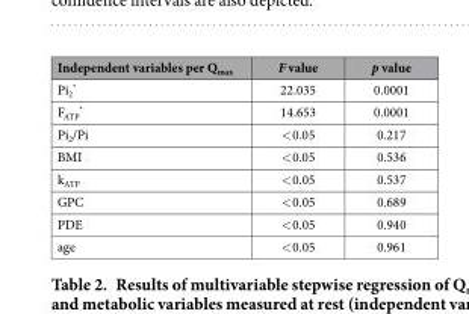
<table><thead><tr><td>Independent variables per Q<sub>max</sub></td><td>F value</td><td>p value</td></tr></thead><tbody><tr><td>Pi<sub>2</sub> *</td><td>22.035</td><td>0.0001</td></tr><tr><td>F<sub>ATP</sub> *</td><td>14.653</td><td>0.0001</td></tr><tr><td>Pi<sub>2</sub>/Pi</td><td>&lt; 0.05</td><td>0.217</td></tr><tr><td>BMI</td><td>&lt; 0.05</td><td>0.536</td></tr><tr><td>k<sub>ATP</sub></td><td>&lt; 0.05</td><td>0.537</td></tr><tr><td>GPC</td><td>&lt; 0.05</td><td>0.689</td></tr><tr><td>PDE</td><td>&lt; 0.05</td><td>0.940</td></tr><tr><td>age</td><td>&lt; 0.05</td><td>0.961</td></tr></tbody></table>